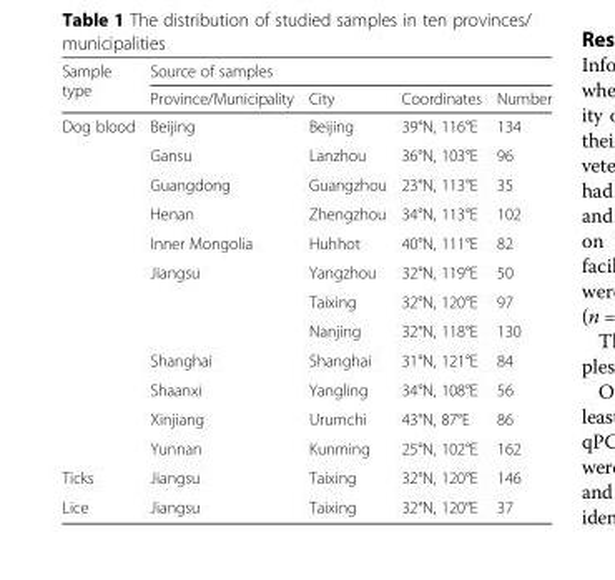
<table><thead><tr><td rowspan="2">Sample type</td><td colspan="4">Source of samples</td></tr><tr><td>Province/Municipality</td><td>City</td><td>Coordinates</td><td>Number</td></tr></thead><tbody><tr><td rowspan="12">Dog blood</td><td>Beijing</td><td>Beijing</td><td>39°N, 116°E</td><td>134</td></tr><tr><td>Gansu</td><td>Lanzhou</td><td>36°N, 103°E</td><td>96</td></tr><tr><td>Guangdong</td><td>Guangzhou</td><td>23°N, 113°E</td><td>35</td></tr><tr><td>Henan</td><td>Zhengzhou</td><td>34°N, 113°E</td><td>102</td></tr><tr><td>Inner Mongolia</td><td>Huhhot</td><td>40°N, 111°E</td><td>82</td></tr><tr><td rowspan="3">Jiangsu</td><td>Yangzhou</td><td>32°N, 119°E</td><td>50</td></tr><tr><td>Taixing</td><td>32°N, 120°E</td><td>97</td></tr><tr><td>Nanjing</td><td>32°N, 118°E</td><td>130</td></tr><tr><td>Shanghai</td><td>Shanghai</td><td>31°N, 121°E</td><td>84</td></tr><tr><td>Shaanxi</td><td>Yangling</td><td>34°N, 108°E</td><td>56</td></tr><tr><td>Xinjiang</td><td>Urumchi</td><td>43°N, 87°E</td><td>86</td></tr><tr><td>Yunnan</td><td>Kunming</td><td>25°N, 102°E</td><td>162</td></tr><tr><td>Ticks</td><td>Jiangsu</td><td>Taixing</td><td>32°N, 120°E</td><td>146</td></tr><tr><td>Lice</td><td>Jiangsu</td><td>Taixing</td><td>32°N, 120°E</td><td>37</td></tr></tbody></table>